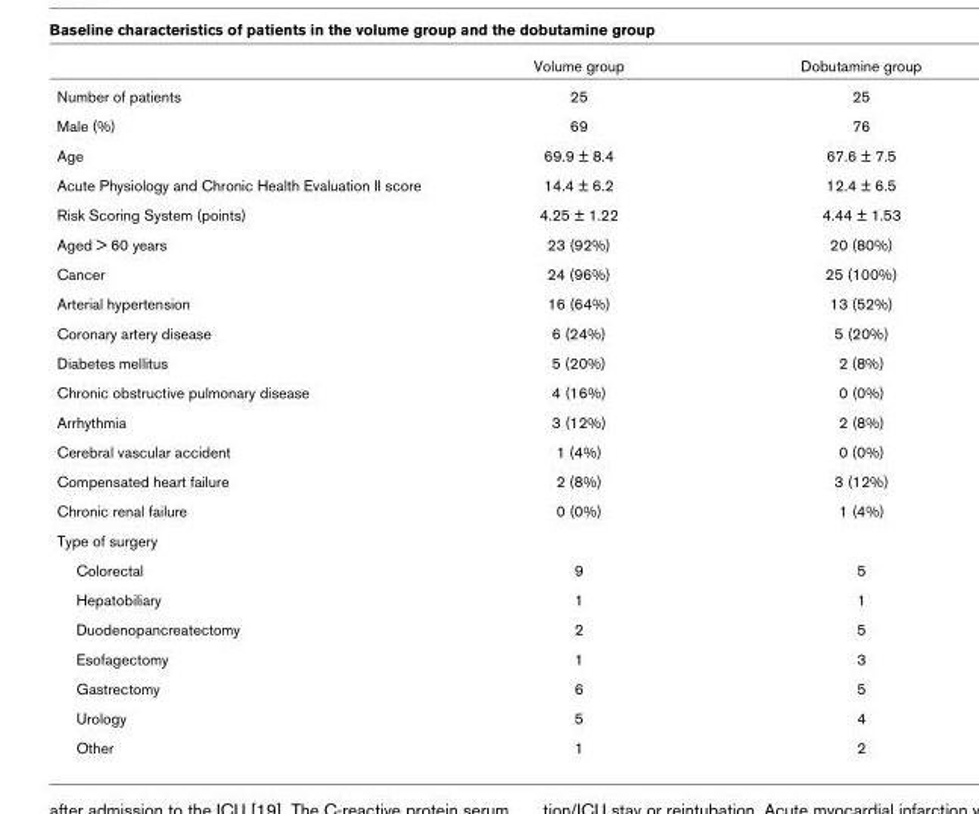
<table><thead><tr><td></td><td>Volume group</td><td>Dobutamine group</td></tr></thead><tbody><tr><td>Number of patients</td><td>25</td><td>25</td></tr><tr><td>Male (%)</td><td>69</td><td>76</td></tr><tr><td>Age</td><td>69.9 ± 8.4</td><td>67.6 ± 7.5</td></tr><tr><td>Acute Physiology and Chronic Health Evaluation II score</td><td>14.4 ± 6.2</td><td>12.4 ± 6.5</td></tr><tr><td>Risk Scoring System (points)</td><td>4.25 ± 1.22</td><td>4.44 ± 1.53</td></tr><tr><td>Aged &gt; 60 years</td><td>23 (92%)</td><td>20 (80%)</td></tr><tr><td>Cancer</td><td>24 (96%)</td><td>25 (100%)</td></tr><tr><td>Arterial hypertension</td><td>16 (64%)</td><td>13 (52%)</td></tr><tr><td>Coronary artery disease</td><td>6 (24%)</td><td>5 (20%)</td></tr><tr><td>Diabetes mellitus</td><td>5 (20%)</td><td>2 (8%)</td></tr><tr><td>Chronic obstructive pulmonary disease</td><td>4 (16%)</td><td>0 (0%)</td></tr><tr><td>Arrhythmia</td><td>3 (12%)</td><td>2 (8%)</td></tr><tr><td>Cerebral vascular accident</td><td>1 (4%)</td><td>0 (0%)</td></tr><tr><td>Compensated heart failure</td><td>2 (8%)</td><td>3 (12%)</td></tr><tr><td>Chronic renal failure</td><td>0 (0%)</td><td>1 (4%)</td></tr><tr><td colspan="3">Type of surgery</td></tr><tr><td>Colorectal</td><td>9</td><td>5</td></tr><tr><td>Hepatobiliary</td><td>1</td><td>1</td></tr><tr><td>Duodenopancreatectomy</td><td>2</td><td>5</td></tr><tr><td>Esofagectomy</td><td>1</td><td>3</td></tr><tr><td>Gastrectomy</td><td>6</td><td>5</td></tr><tr><td>Urology</td><td>5</td><td>4</td></tr><tr><td>Other</td><td>1</td><td>2</td></tr></tbody></table>